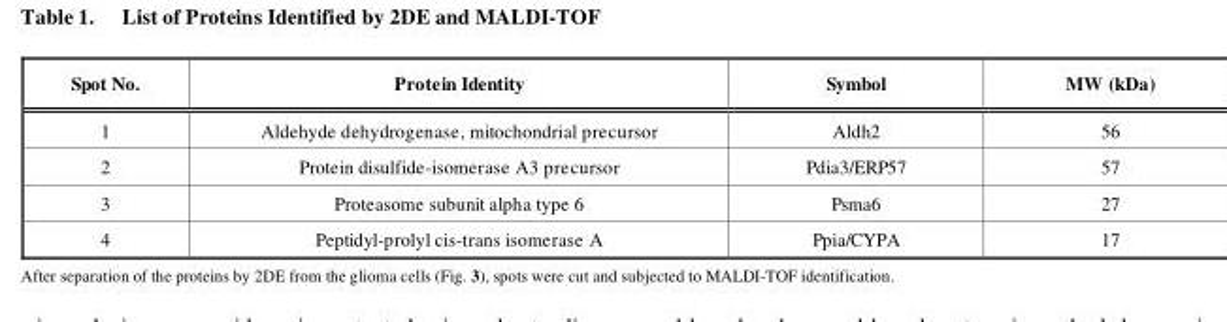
<table><thead><tr><td>Spot No.</td><td>Protein Identity</td><td>Symbol</td><td>MW (kDa)</td></tr></thead><tbody><tr><td>1</td><td>Aldehyde dehydrogenase, mitochondrial precursor</td><td>Aldh2</td><td>56</td></tr><tr><td>2</td><td>Protein disulfide-isomerase A3 precursor</td><td>Pdia3/ERP57</td><td>57</td></tr><tr><td>3</td><td>Proteasome subunit alpha type 6</td><td>Psma6</td><td>27</td></tr><tr><td>4</td><td>Peptidyl-prolyl cis-trans isomerase A</td><td>Ppia/CYPA</td><td>17</td></tr></tbody></table>